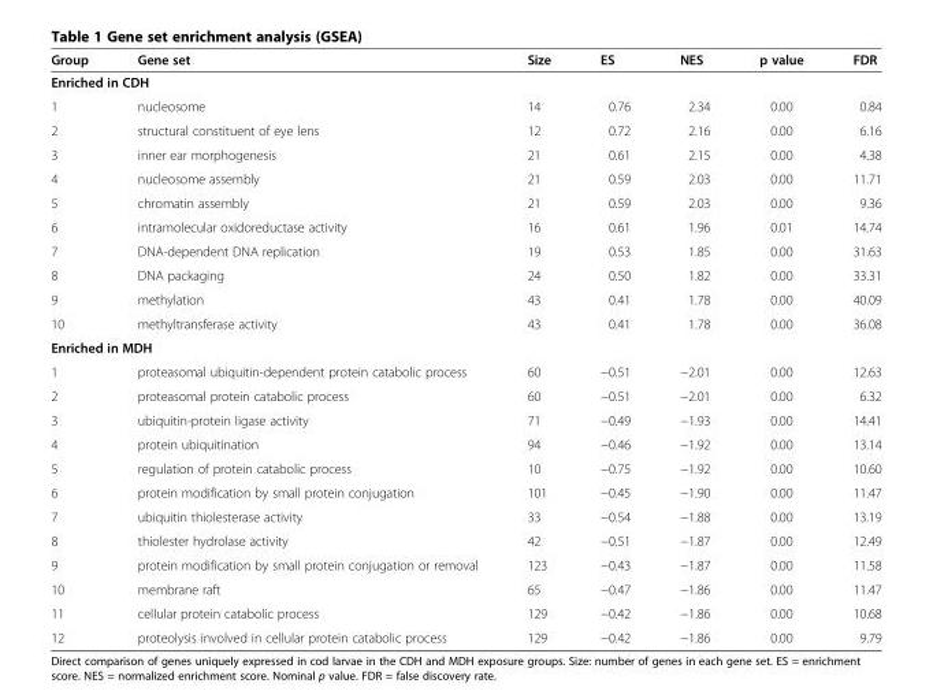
<table><thead><tr><td>Group</td><td>Gene set</td><td>Size</td><td>ES</td><td>NES</td><td>p value</td><td>FDR</td></tr></thead><tbody><tr><td colspan="7">Enriched in CDH</td></tr><tr><td>1</td><td>nucleosome</td><td>14</td><td>0.76</td><td>2.34</td><td>0.00</td><td>0.84</td></tr><tr><td>2</td><td>structural constituent of eye lens</td><td>12</td><td>0.72</td><td>2.16</td><td>0.00</td><td>6.16</td></tr><tr><td>3</td><td>inner ear morphogenesis</td><td>21</td><td>0.61</td><td>2.15</td><td>0.00</td><td>4.38</td></tr><tr><td>4</td><td>nucleosome assembly</td><td>21</td><td>0.59</td><td>2.03</td><td>0.00</td><td>11.71</td></tr><tr><td>5</td><td>chromatin assembly</td><td>21</td><td>0.59</td><td>2.03</td><td>0.00</td><td>9.36</td></tr><tr><td>6</td><td>intramolecular oxidoreductase activity</td><td>16</td><td>0.61</td><td>1.96</td><td>0.01</td><td>14.74</td></tr><tr><td>7</td><td>DNA-dependent DNA replication</td><td>19</td><td>0.53</td><td>1.85</td><td>0.00</td><td>31.63</td></tr><tr><td>8</td><td>DNA packaging</td><td>24</td><td>0.50</td><td>1.82</td><td>0.00</td><td>33.31</td></tr><tr><td>9</td><td>methylation</td><td>43</td><td>0.41</td><td>1.78</td><td>0.00</td><td>40.09</td></tr><tr><td>10</td><td>methyltransferase activity</td><td>43</td><td>0.41</td><td>1.78</td><td>0.00</td><td>36.08</td></tr><tr><td colspan="7">Enriched in MDH</td></tr><tr><td>1</td><td>proteasomal ubiquitin-dependent protein catabolic process</td><td>60</td><td>−0.51</td><td>−2.01</td><td>0.00</td><td>12.63</td></tr><tr><td>2</td><td>proteasomal protein catabolic process</td><td>60</td><td>−0.51</td><td>−2.01</td><td>0.00</td><td>6.32</td></tr><tr><td>3</td><td>ubiquitin-protein ligase activity</td><td>71</td><td>−0.49</td><td>−1.93</td><td>0.00</td><td>14.41</td></tr><tr><td>4</td><td>protein ubiquitination</td><td>94</td><td>−0.46</td><td>−1.92</td><td>0.00</td><td>13.14</td></tr><tr><td>5</td><td>regulation of protein catabolic process</td><td>10</td><td>−0.75</td><td>−1.92</td><td>0.00</td><td>10.60</td></tr><tr><td>6</td><td>protein modification by small protein conjugation</td><td>101</td><td>−0.45</td><td>−1.90</td><td>0.00</td><td>11.47</td></tr><tr><td>7</td><td>ubiquitin thiolesterase activity</td><td>33</td><td>−0.54</td><td>−1.88</td><td>0.00</td><td>13.19</td></tr><tr><td>8</td><td>thiolester hydrolase activity</td><td>42</td><td>−0.51</td><td>−1.87</td><td>0.00</td><td>12.49</td></tr><tr><td>9</td><td>protein modification by small protein conjugation or removal</td><td>123</td><td>−0.43</td><td>−1.87</td><td>0.00</td><td>11.58</td></tr><tr><td>10</td><td>membrane raft</td><td>65</td><td>−0.47</td><td>−1.86</td><td>0.00</td><td>11.47</td></tr><tr><td>11</td><td>cellular protein catabolic process</td><td>129</td><td>−0.42</td><td>−1.86</td><td>0.00</td><td>10.68</td></tr><tr><td>12</td><td>proteolysis involved in cellular protein catabolic process</td><td>129</td><td>−0.42</td><td>−1.86</td><td>0.00</td><td>9.79</td></tr></tbody></table>